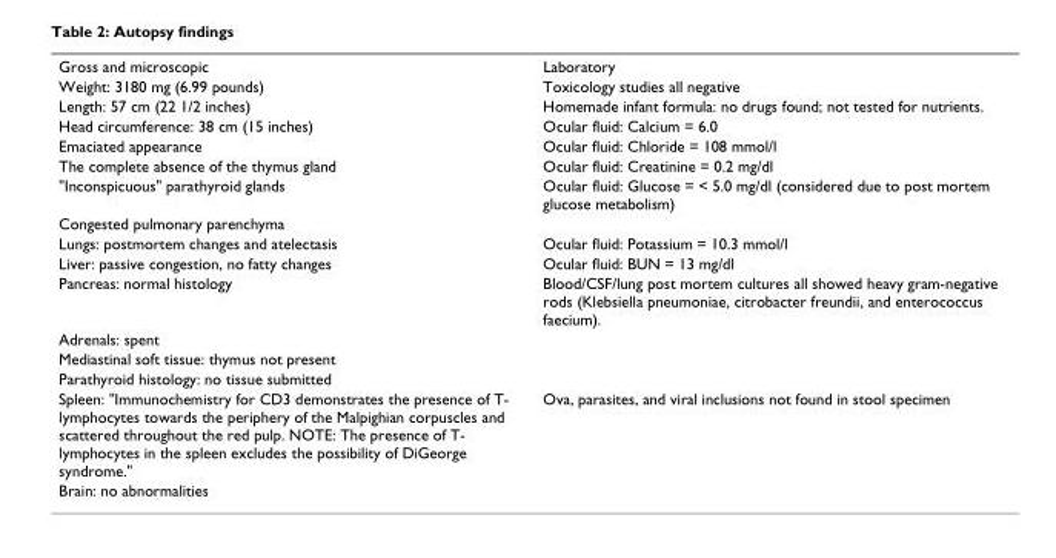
<table><tbody><tr><td>Gross and microscopic</td><td>Laboratory</td></tr><tr><td>Weight: 3180 mg (6.99 pounds)</td><td>Toxicology studies all negative</td></tr><tr><td>Length: 57 cm (22 1/2 inches)</td><td>Homemade infant formula: no drugs found; not tested for nutrients.</td></tr><tr><td>Head circumference: 38 cm (15 inches)</td><td>Ocular fluid: Calcium = 6.0</td></tr><tr><td>Emaciated appearance</td><td>Ocular fluid: Chloride = 108 mmol/l</td></tr><tr><td>The complete absence of the thymus gland</td><td>Ocular fluid: Creatinine = 0.2 mg/dl</td></tr><tr><td>&quot;Inconspicuous&quot; parathyroid glands</td><td>Ocular fluid: Glucose = &lt; 5.0 mg/dl (considered due to post mortem glucose metabolism)</td></tr><tr><td colspan="2">Congested pulmonary parenchyma</td></tr><tr><td>Lungs: postmortem changes and atelectasis</td><td>Ocular fluid: Potassium = 10.3 mmol/l</td></tr><tr><td>Liver: passive congestion, no fatty changes</td><td>Ocular fluid: BUN = 13 mg/dl</td></tr><tr><td>Pancreas: normal histology</td><td>Blood/CSF/lung post mortem cultures all showed heavy gram-negative rods (Klebsiella pneumoniae, citrobacter freundii, and enterococcus faecium).</td></tr><tr><td colspan="2">Adrenals: spent</td></tr><tr><td colspan="2">Mediastinal soft tissue: thymus not present</td></tr><tr><td colspan="2">Parathyroid histology: no tissue submitted</td></tr><tr><td>Spleen: &quot;Immunochemistry for CD3 demonstrates the presence of T- lymphocytes towards the periphery of the Malpighian corpuscles and scattered throughout the red pulp. NOTE: The presence of T- lymphocytes in the spleen excludes the possibility of DiGeorge syndrome.&quot;</td><td>Ova, parasites, and viral inclusions not found in stool specimen</td></tr><tr><td>Brain: no abnormalities</td><td></td></tr></tbody></table>